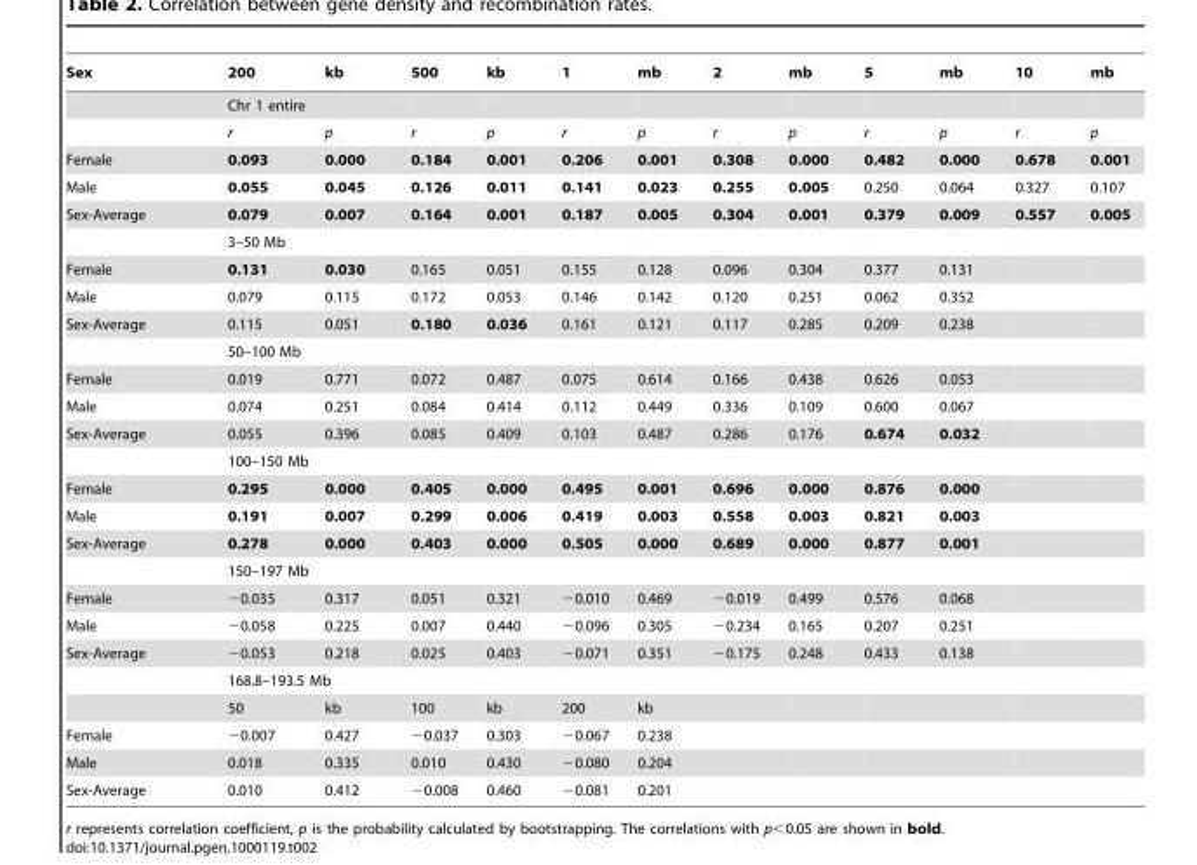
<table><thead><tr><td>Sex</td><td>200</td><td>kb</td><td>500</td><td>kb</td><td>1</td><td>mb</td><td>2</td><td>mb</td><td>5</td><td>mb</td><td>10</td><td>mb</td></tr></thead><tbody><tr><td></td><td colspan="2">Chr 1 entire</td><td></td><td></td><td></td><td></td><td></td><td></td><td></td><td></td><td></td><td></td></tr><tr><td></td><td>r</td><td>p</td><td>r</td><td>p</td><td>r</td><td>p</td><td>r</td><td>p</td><td>r</td><td>p</td><td>r</td><td>p</td></tr><tr><td>Female</td><td>0.093</td><td>0.000</td><td>0.184</td><td>0.001</td><td>0.206</td><td>0.001</td><td>0.308</td><td>0.000</td><td>0.482</td><td>0.000</td><td>0.678</td><td>0.001</td></tr><tr><td>Male</td><td>0.055</td><td>0.045</td><td>0.126</td><td>0.011</td><td>0.141</td><td>0.023</td><td>0.255</td><td>0.005</td><td>0.250</td><td>0.064</td><td>0.327</td><td>0.107</td></tr><tr><td rowspan="2">Sex-Average</td><td>0.079</td><td>0.007</td><td>0.164</td><td>0.001</td><td>0.187</td><td>0.005</td><td>0.304</td><td>0.001</td><td>0.379</td><td>0.009</td><td>0.557</td><td>0.005</td></tr><tr><td colspan="2">3–50 Mb</td><td></td><td></td><td></td><td></td><td></td><td></td><td></td><td></td><td></td><td></td></tr><tr><td>Female</td><td>0.131</td><td>0.030</td><td>0.165</td><td>0.051</td><td>0.155</td><td>0.128</td><td>0.096</td><td>0.304</td><td>0.377</td><td>0.131</td><td></td><td></td></tr><tr><td>Male</td><td>0.079</td><td>0.115</td><td>0.172</td><td>0.053</td><td>0.146</td><td>0.142</td><td>0.120</td><td>0.251</td><td>0.062</td><td>0.352</td><td></td><td></td></tr><tr><td rowspan="2">Sex-Average</td><td>0.115</td><td>0.051</td><td>0.180</td><td>0.036</td><td>0.161</td><td>0.121</td><td>0.117</td><td>0.285</td><td>0.209</td><td>0.238</td><td></td><td></td></tr><tr><td colspan="2">50–100 Mb</td><td></td><td></td><td></td><td></td><td></td><td></td><td></td><td></td><td></td><td></td></tr><tr><td>Female</td><td>0.019</td><td>0.771</td><td>0.072</td><td>0.487</td><td>0.075</td><td>0.614</td><td>0.166</td><td>0.438</td><td>0.626</td><td>0.053</td><td></td><td></td></tr><tr><td>Male</td><td>0.074</td><td>0.251</td><td>0.084</td><td>0.414</td><td>0.112</td><td>0.449</td><td>0.336</td><td>0.109</td><td>0.600</td><td>0.067</td><td></td><td></td></tr><tr><td rowspan="2">Sex-Average</td><td>0.055</td><td>0.396</td><td>0.085</td><td>0.409</td><td>0.103</td><td>0.487</td><td>0.286</td><td>0.176</td><td>0.674</td><td>0.032</td><td></td><td></td></tr><tr><td colspan="2">100–150 Mb</td><td></td><td></td><td></td><td></td><td></td><td></td><td></td><td></td><td></td><td></td></tr><tr><td>Female</td><td>0.295</td><td>0.000</td><td>0.405</td><td>0.000</td><td>0.495</td><td>0.001</td><td>0.696</td><td>0.000</td><td>0.876</td><td>0.000</td><td></td><td></td></tr><tr><td>Male</td><td>0.191</td><td>0.007</td><td>0.299</td><td>0.006</td><td>0.419</td><td>0.003</td><td>0.558</td><td>0.003</td><td>0.821</td><td>0.003</td><td></td><td></td></tr><tr><td rowspan="2">Sex-Average</td><td>0.278</td><td>0.000</td><td>0.403</td><td>0.000</td><td>0.505</td><td>0.000</td><td>0.689</td><td>0.000</td><td>0.877</td><td>0.001</td><td></td><td></td></tr><tr><td colspan="2">150–197 Mb</td><td></td><td></td><td></td><td></td><td></td><td></td><td></td><td></td><td></td><td></td></tr><tr><td>Female</td><td>−0.035</td><td>0.317</td><td>0.051</td><td>0.321</td><td>−0.010</td><td>0.469</td><td>−0.019</td><td>0.499</td><td>0.576</td><td>0.068</td><td></td><td></td></tr><tr><td>Male</td><td>−0.058</td><td>0.225</td><td>0.007</td><td>0.440</td><td>−0.096</td><td>0.305</td><td>−0.234</td><td>0.165</td><td>0.207</td><td>0.251</td><td></td><td></td></tr><tr><td rowspan="3">Sex-Average</td><td>−0.053</td><td>0.218</td><td>0.025</td><td>0.403</td><td>−0.071</td><td>0.351</td><td>−0.175</td><td>0.248</td><td>0.433</td><td>0.138</td><td></td><td></td></tr><tr><td colspan="2">168.8–193.5 Mb</td><td></td><td></td><td></td><td></td><td></td><td></td><td></td><td></td><td></td><td></td></tr><tr><td>50</td><td>kb</td><td>100</td><td>kb</td><td>200</td><td>kb</td><td></td><td></td><td></td><td></td><td></td><td></td></tr><tr><td>Female</td><td>−0.007</td><td>0.427</td><td>−0.037</td><td>0.303</td><td>−0.067</td><td>0.238</td><td></td><td></td><td></td><td></td><td></td><td></td></tr><tr><td>Male</td><td>0.018</td><td>0.335</td><td>0.010</td><td>0.430</td><td>−0.080</td><td>0.204</td><td></td><td></td><td></td><td></td><td></td><td></td></tr><tr><td>Sex-Average</td><td>0.010</td><td>0.412</td><td>−0.008</td><td>0.460</td><td>−0.081</td><td>0.201</td><td></td><td></td><td></td><td></td><td></td><td></td></tr></tbody></table>